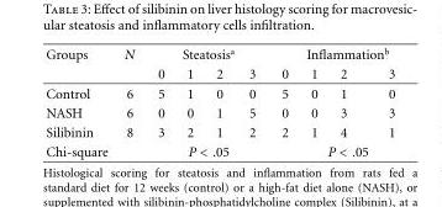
<table><thead><tr><td rowspan="2">Groups</td><td rowspan="2">N</td><td colspan="4">Steatosis<sup>a</sup></td><td colspan="4">Inflammation<sup>b</sup></td></tr><tr><td>0</td><td>1</td><td>2</td><td>3</td><td>0</td><td>1</td><td>2</td><td>3</td></tr></thead><tbody><tr><td>Control</td><td>6</td><td>5</td><td>1</td><td>0</td><td>0</td><td>5</td><td>0</td><td>1</td><td>0</td></tr><tr><td>NASH</td><td>6</td><td>0</td><td>0</td><td>1</td><td>5</td><td>0</td><td>0</td><td>3</td><td>3</td></tr><tr><td>Silibinin</td><td>8</td><td>3</td><td>2</td><td>1</td><td>2</td><td>2</td><td>1</td><td>4</td><td>1</td></tr><tr><td>Chi-square</td><td></td><td colspan="4">P &lt; .05</td><td colspan="4">P &lt; .05</td></tr></tbody></table>